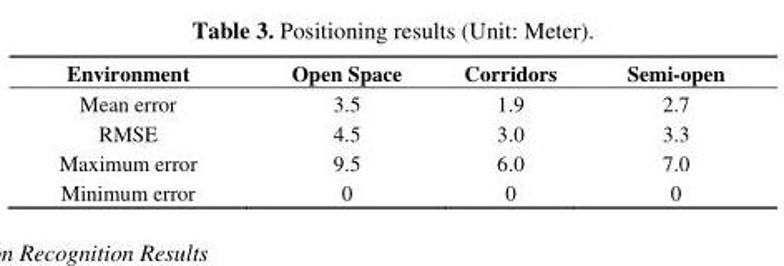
<table><thead><tr><td>Environment</td><td>Open Space</td><td>Corridors</td><td>Semi-open</td></tr></thead><tbody><tr><td>Mean error</td><td>3.5</td><td>1.9</td><td>2.7</td></tr><tr><td>RMSE</td><td>4.5</td><td>3.0</td><td>3.3</td></tr><tr><td>Maximum error</td><td>9.5</td><td>6.0</td><td>7.0</td></tr><tr><td>Minimum error</td><td>0</td><td>0</td><td>0</td></tr></tbody></table>